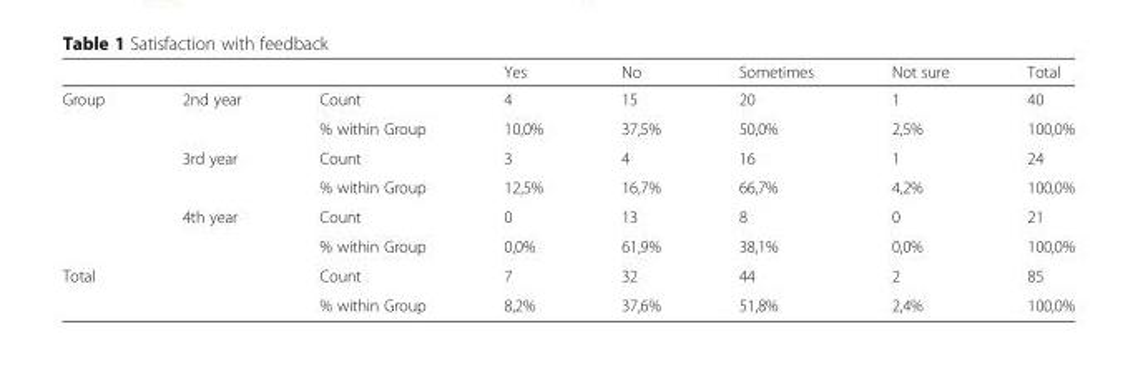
<table><thead><tr><td></td><td></td><td></td><td>Yes</td><td>No</td><td>Sometimes</td><td>Not sure</td><td>Total</td></tr></thead><tbody><tr><td rowspan="6">Group</td><td rowspan="2">2nd year</td><td>Count</td><td>4</td><td>15</td><td>20</td><td>1</td><td>40</td></tr><tr><td>% within Group</td><td>10,0%</td><td>37,5%</td><td>50,0%</td><td>2,5%</td><td>100,0%</td></tr><tr><td rowspan="2">3rd year</td><td>Count</td><td>3</td><td>4</td><td>16</td><td>1</td><td>24</td></tr><tr><td>% within Group</td><td>12,5%</td><td>16,7%</td><td>66,7%</td><td>4,2%</td><td>100,0%</td></tr><tr><td rowspan="2">4th year</td><td>Count</td><td>0</td><td>13</td><td>8</td><td>0</td><td>21</td></tr><tr><td>% within Group</td><td>0,0%</td><td>61,9%</td><td>38,1%</td><td>0,0%</td><td>100,0%</td></tr><tr><td rowspan="2" colspan="2">Total</td><td>Count</td><td>7</td><td>32</td><td>44</td><td>2</td><td>85</td></tr><tr><td>% within Group</td><td>8,2%</td><td>37,6%</td><td>51,8%</td><td>2,4%</td><td>100,0%</td></tr></tbody></table>